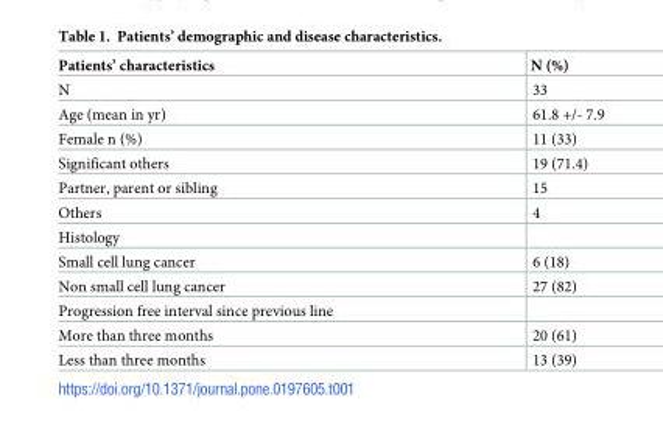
<table><thead><tr><td>Patients’ characteristics</td><td>N (%)</td></tr></thead><tbody><tr><td>N</td><td>33</td></tr><tr><td>Age (mean in yr)</td><td>61.8 +/- 7.9</td></tr><tr><td>Female n (%)</td><td>11 (33)</td></tr><tr><td>Significant others</td><td>19 (71.4)</td></tr><tr><td>Partner, parent or sibling</td><td>15</td></tr><tr><td>Others</td><td>4</td></tr><tr><td colspan="2">Histology</td></tr><tr><td>Small cell lung cancer</td><td>6 (18)</td></tr><tr><td>Non small cell lung cancer</td><td>27 (82)</td></tr><tr><td colspan="2">Progression free interval since previous line</td></tr><tr><td>More than three months</td><td>20 (61)</td></tr><tr><td>Less than three months</td><td>13 (39)</td></tr></tbody></table>